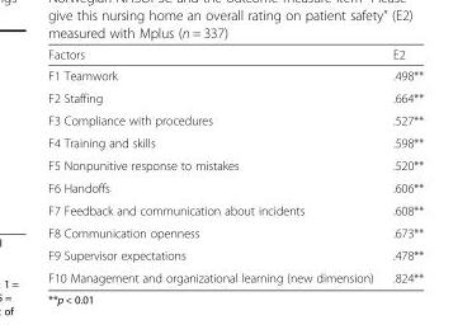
<table><thead><tr><td>Factors</td><td>E2</td></tr></thead><tbody><tr><td>F1 Teamwork</td><td>.498**</td></tr><tr><td>F2 Staffing</td><td>.664**</td></tr><tr><td>F3 Compliance with procedures</td><td>.527**</td></tr><tr><td>F4 Training and skills</td><td>.598**</td></tr><tr><td>F5 Nonpunitive response to mistakes</td><td>.520**</td></tr><tr><td>F6 Handoffs</td><td>.606**</td></tr><tr><td>F7 Feedback and communication about incidents</td><td>.608**</td></tr><tr><td>F8 Communication openness</td><td>.673**</td></tr><tr><td>F9 Supervisor expectations</td><td>.478**</td></tr><tr><td>F10 Management and organizational learning (new dimension)</td><td>.824**</td></tr></tbody></table>